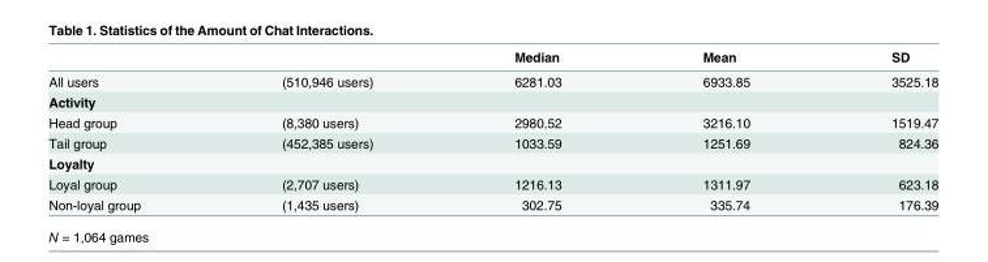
<table><thead><tr><td></td><td></td><td>Median</td><td>Mean</td><td>SD</td></tr></thead><tbody><tr><td>All users</td><td>(510,946 users)</td><td>6281.03</td><td>6933.85</td><td>3525.18</td></tr><tr><td colspan="5">Activity</td></tr><tr><td>Head group</td><td>(8,380 users)</td><td>2980.52</td><td>3216.10</td><td>1519.47</td></tr><tr><td>Tail group</td><td>(452,385 users)</td><td>1033.59</td><td>1251.69</td><td>824.36</td></tr><tr><td colspan="5">Loyalty</td></tr><tr><td>Loyal group</td><td>(2,707 users)</td><td>1216.13</td><td>1311.97</td><td>623.18</td></tr><tr><td>Non-loyal group</td><td>(1,435 users)</td><td>302.75</td><td>335.74</td><td>176.39</td></tr></tbody></table>